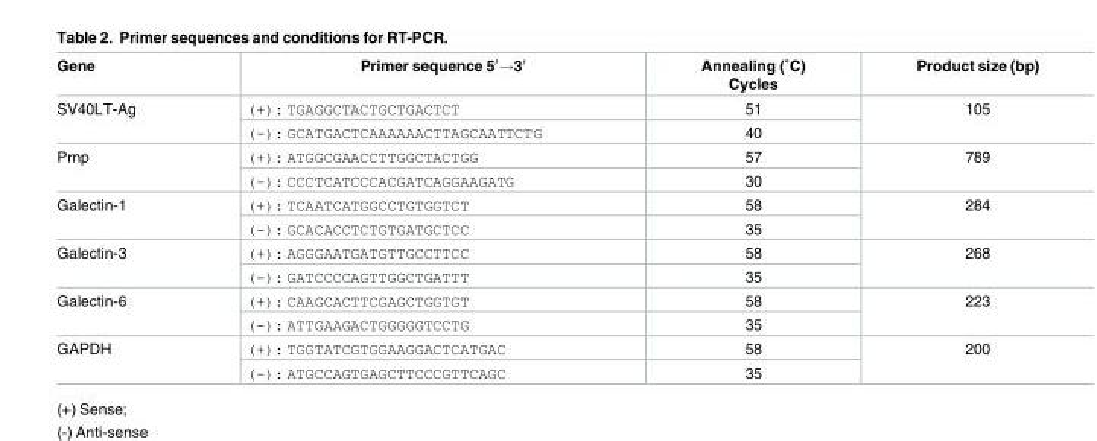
<table><thead><tr><td>Gene</td><td>Primer sequence 5′→3′</td><td>Annealing (˚C) Cycles</td><td>Product size (bp)</td></tr></thead><tbody><tr><td rowspan="2">SV40LT-Ag</td><td>(+): TGAGGCTACTGCTGACTCT</td><td>51</td><td rowspan="2">105</td></tr><tr><td>(-): GCATGACTCAAAAAACTTAGCAATTCTG</td><td>40</td></tr><tr><td rowspan="2">Prnp</td><td>(+): ATGGCGAACCTTGGCTACTGG</td><td>57</td><td rowspan="2">789</td></tr><tr><td>(-): CCCTCATCCCACGATCAGGAAGATG</td><td>30</td></tr><tr><td rowspan="2">Galectin-1</td><td>(+): TCAATCATGGCCTGTGGTCT</td><td>58</td><td rowspan="2">284</td></tr><tr><td>(-): GCACACCTCTGTGATGCTCC</td><td>35</td></tr><tr><td rowspan="2">Galectin-3</td><td>(+): AGGGAATGATGTTGCCTTCC</td><td>58</td><td rowspan="2">268</td></tr><tr><td>(-): GATCCCCAGTTGGCTGATTT</td><td>35</td></tr><tr><td rowspan="2">Galectin-6</td><td>(+): CAAGCACTTCGAGCTGGTGT</td><td>58</td><td rowspan="2">223</td></tr><tr><td>(-): ATTGAAGACTGGGGGTCCTG</td><td>35</td></tr><tr><td rowspan="2">GAPDH</td><td>(+): TGGTATCGTGGAAGGACTCATGAC</td><td>58</td><td rowspan="2">200</td></tr><tr><td>(-): ATGCCAGTGAGCTTCCCGTTCAGC</td><td>35</td></tr></tbody></table>